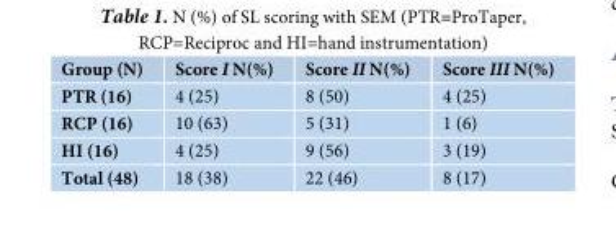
<table><thead><tr><td>Group (N)</td><td>Score I N(%)</td><td>Score II N(%)</td><td>Score III N(%)</td></tr></thead><tbody><tr><td>PTR (16)</td><td>4 (25)</td><td>8 (50)</td><td>4 (25)</td></tr><tr><td>RCP (16)</td><td>10 (63)</td><td>5 (31)</td><td>1 (6)</td></tr><tr><td>HI (16)</td><td>4 (25)</td><td>9 (56)</td><td>3 (19)</td></tr><tr><td>Total (48)</td><td>18 (38)</td><td>22 (46)</td><td>8 (17)</td></tr></tbody></table>